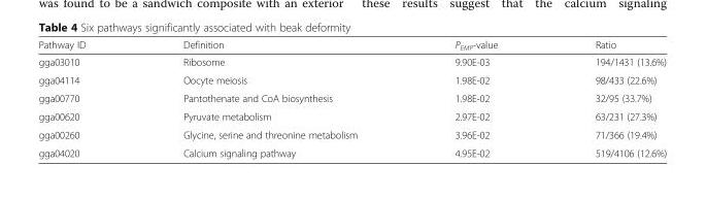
<table><thead><tr><td>Pathway ID</td><td>Definition</td><td>P<sub>EMP</sub>-value</td><td>Ratio</td></tr></thead><tbody><tr><td>gga03010</td><td>Ribosome</td><td>9.90E-03</td><td>194/1431 (13.6%)</td></tr><tr><td>gga04114</td><td>Oocyte meiosis</td><td>1.98E-02</td><td>98/433 (22.6%)</td></tr><tr><td>gga00770</td><td>Pantothenate and CoA biosynthesis</td><td>1.98E-02</td><td>32/95 (33.7%)</td></tr><tr><td>gga00620</td><td>Pyruvate metabolism</td><td>2.97E-02</td><td>63/231 (27.3%)</td></tr><tr><td>gga00260</td><td>Glycine, serine and threonine metabolism</td><td>3.96E-02</td><td>71/366 (19.4%)</td></tr><tr><td>gga04020</td><td>Calcium signaling pathway</td><td>4.95E-02</td><td>519/4106 (12.6%)</td></tr></tbody></table>